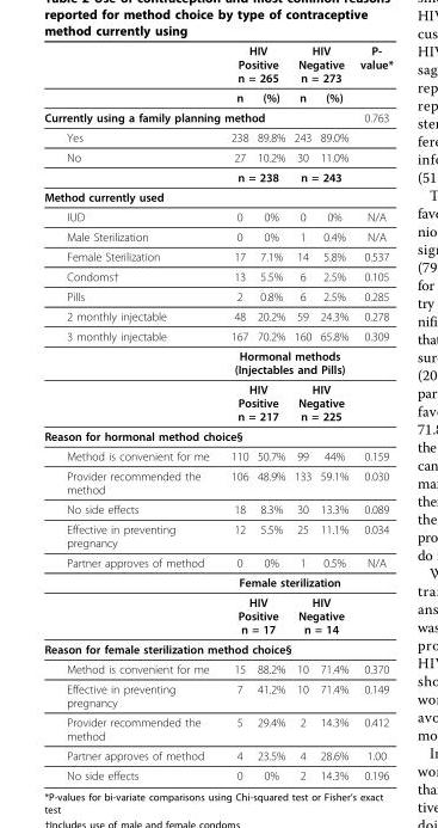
<table><thead><tr><td rowspan="2"></td><td colspan="2">HIV Positive n = 265</td><td colspan="2">HIV Negative n = 273</td><td rowspan="2">P- value*</td></tr><tr><td>n</td><td>(%)</td><td>n</td><td>(%)</td></tr></thead><tbody><tr><td colspan="5">Currently using a family planning method</td><td>0.763</td></tr><tr><td>Yes</td><td>238</td><td>89.8%</td><td>243</td><td>89.0%</td><td></td></tr><tr><td rowspan="2">No</td><td>27</td><td>10.2%</td><td>30</td><td>11.0%</td><td></td></tr><tr><td colspan="2">n = 238</td><td colspan="2">n = 243</td><td></td></tr><tr><td colspan="6">Method currently used</td></tr><tr><td>IUD</td><td>0</td><td>0%</td><td>0</td><td>0%</td><td>N/A</td></tr><tr><td>Male Sterilization</td><td>0</td><td>0%</td><td>1</td><td>0.4%</td><td>N/A</td></tr><tr><td>Female Sterilization</td><td>17</td><td>7.1%</td><td>14</td><td>5.8%</td><td>0.537</td></tr><tr><td>Condoms†</td><td>13</td><td>5.5%</td><td>6</td><td>2.5%</td><td>0.105</td></tr><tr><td>Pills</td><td>2</td><td>0.8%</td><td>6</td><td>2.5%</td><td>0.285</td></tr><tr><td>2 monthly injectable</td><td>48</td><td>20.2%</td><td>59</td><td>24.3%</td><td>0.278</td></tr><tr><td rowspan="3">3 monthly injectable</td><td>167</td><td>70.2%</td><td>160</td><td>65.8%</td><td>0.309</td></tr><tr><td colspan="4">Hormonal methods (Injectables and Pills)</td><td></td></tr><tr><td colspan="2">HIV Positive n = 217</td><td colspan="2">HIV Negative n = 225</td><td></td></tr><tr><td colspan="6">Reason for hormonal method choice§</td></tr><tr><td>Method is convenient for me</td><td>110</td><td>50.7%</td><td>99</td><td>44%</td><td>0.159</td></tr><tr><td>Provider recommended the method</td><td>106</td><td>48.9%</td><td>133</td><td>59.1%</td><td>0.030</td></tr><tr><td>No side effects</td><td>18</td><td>8.3%</td><td>30</td><td>13.3%</td><td>0.089</td></tr><tr><td>Effective in preventing pregnancy</td><td>12</td><td>5.5%</td><td>25</td><td>11.1%</td><td>0.034</td></tr><tr><td rowspan="3">Partner approves of method</td><td>0</td><td>0%</td><td>1</td><td>0.5%</td><td>N/A</td></tr><tr><td colspan="4">Female sterilization</td><td></td></tr><tr><td colspan="2">HIV Positive n = 17</td><td colspan="2">HIV Negative n = 14</td><td></td></tr><tr><td colspan="6">Reason for female sterilization method choice§</td></tr><tr><td>Method is convenient for me</td><td>15</td><td>88.2%</td><td>10</td><td>71.4%</td><td>0.370</td></tr><tr><td>Effective in preventing pregnancy</td><td>7</td><td>41.2%</td><td>10</td><td>71.4%</td><td>0.149</td></tr><tr><td>Provider recommended the method</td><td>5</td><td>29.4%</td><td>2</td><td>14.3%</td><td>0.412</td></tr><tr><td>Partner approves of method</td><td>4</td><td>23.5%</td><td>4</td><td>28.6%</td><td>1.00</td></tr><tr><td>No side effects</td><td>0</td><td>0%</td><td>2</td><td>14.3%</td><td>0.196</td></tr></tbody></table>